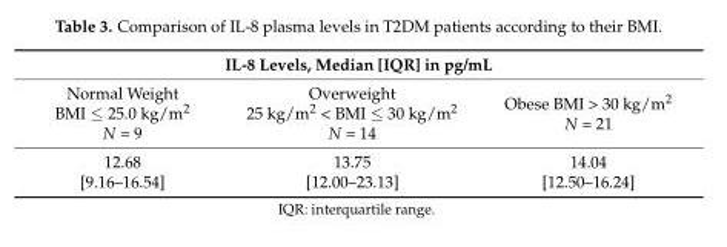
<table><thead><tr><td colspan="3">IL-8 Levels, Median [IQR] in pg/mL</td></tr><tr><td>Normal Weight BMI ≤ 25.0 kg/m<sup>2</sup> N = 9</td><td>Overweight 25 kg/m<sup>2</sup> &lt; BMI ≤ 30 kg/m<sup>2</sup> N = 14</td><td>Obese BMI &gt; 30 kg/m<sup>2</sup> N = 21</td></tr></thead><tbody><tr><td>12.68 [9.16–16.54]</td><td>13.75 [12.00–23.13]</td><td>14.04 [12.50–16.24]</td></tr></tbody></table>